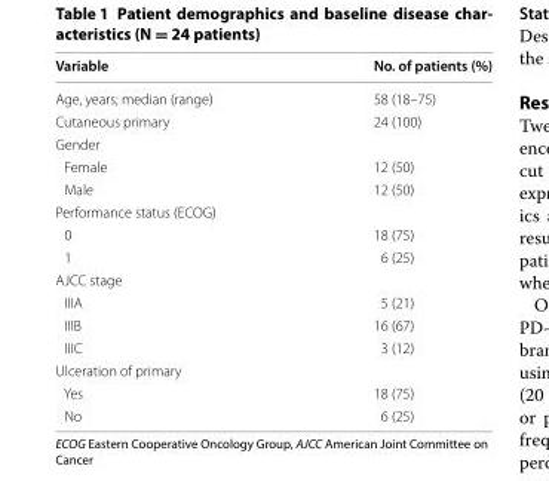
<table><thead><tr><td>Variable</td><td>No. of patients (%)</td></tr></thead><tbody><tr><td>Age, years; median (range)</td><td>58 (18–75)</td></tr><tr><td>Cutaneous primary</td><td>24 (100)</td></tr><tr><td colspan="2">Gender</td></tr><tr><td>Female</td><td>12 (50)</td></tr><tr><td>Male</td><td>12 (50)</td></tr><tr><td colspan="2">Performance status (ECOG)</td></tr><tr><td>0</td><td>18 (75)</td></tr><tr><td>1</td><td>6 (25)</td></tr><tr><td colspan="2">AJCC stage</td></tr><tr><td>IIIA</td><td>5 (21)</td></tr><tr><td>IIIB</td><td>16 (67)</td></tr><tr><td>IIIC</td><td>3 (12)</td></tr><tr><td colspan="2">Ulceration of primary</td></tr><tr><td>Yes</td><td>18 (75)</td></tr><tr><td>No</td><td>6 (25)</td></tr></tbody></table>